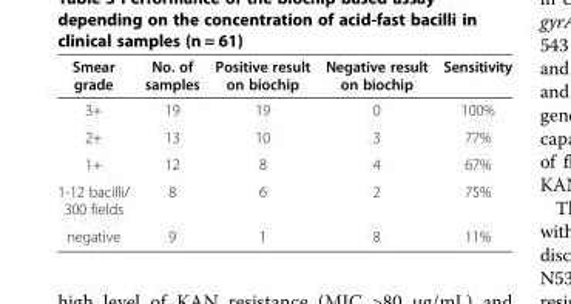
<table><thead><tr><td>Smear grade</td><td>No. of samples</td><td>Positive result on biochip</td><td>Negative result on biochip</td><td>Sensitivity</td></tr></thead><tbody><tr><td>3+</td><td>19</td><td>19</td><td>0</td><td>100%</td></tr><tr><td>2+</td><td>13</td><td>10</td><td>3</td><td>77%</td></tr><tr><td>1+</td><td>12</td><td>8</td><td>4</td><td>67%</td></tr><tr><td>1-12 bacilli/ 300 fields</td><td>8</td><td>6</td><td>2</td><td>75%</td></tr><tr><td>negative</td><td>9</td><td>1</td><td>8</td><td>11%</td></tr></tbody></table>